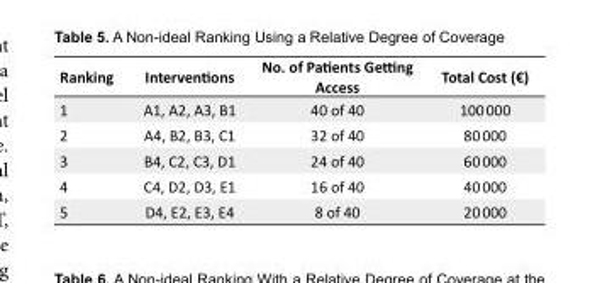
<table><tbody><tr><td>Ranking</td><td>Interventions</td><td>No. of Patients Getting Access</td><td>Total Cost (€)</td></tr><tr><td>1</td><td>A1, A2, A3, B1</td><td>40 of 40</td><td>100 000</td></tr><tr><td>2</td><td>A4, B2, B3, C1</td><td>32 of 40</td><td>80 000</td></tr><tr><td>3</td><td>B4, C2, C3, D1</td><td>24 of 40</td><td>60 000</td></tr><tr><td>4</td><td>C4, D2, D3, E1</td><td>16 of 40</td><td>40 000</td></tr><tr><td>5</td><td>D4, E2, E3, E4</td><td>8 of 40</td><td>20 000</td></tr></tbody></table>